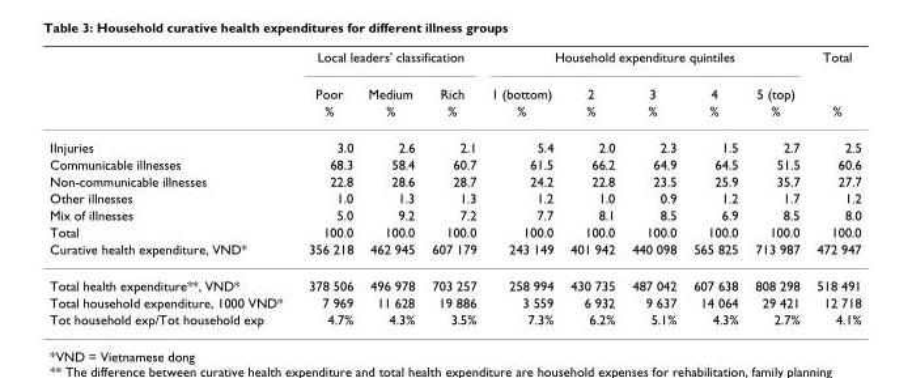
<table><thead><tr><td rowspan="3"></td><td colspan="3">Local leaders&#x27; classification</td><td colspan="5">Household expenditure quintiles</td><td rowspan="3">Total %</td></tr><tr><td rowspan="2">Poor %</td><td rowspan="2">Medium %</td><td rowspan="2">Rich %</td><td rowspan="2">1 (bottom) %</td><td rowspan="2">2 %</td><td rowspan="2">3 %</td><td rowspan="2">4 %</td><td rowspan="2">5 (top) %</td></tr><tr></tr></thead><tbody><tr><td>IInjuries</td><td>3.0</td><td>2.6</td><td>2.1</td><td>5.4</td><td>2.0</td><td>2.3</td><td>1.5</td><td>2.7</td><td>2.5</td></tr><tr><td>Communicable illnesses</td><td>68.3</td><td>58.4</td><td>60.7</td><td>61.5</td><td>66.2</td><td>64.9</td><td>64.5</td><td>51.5</td><td>60.6</td></tr><tr><td>Non-communicable illnesses</td><td>22.8</td><td>28.6</td><td>28.7</td><td>24.2</td><td>22.8</td><td>23.5</td><td>25.9</td><td>35.7</td><td>27.7</td></tr><tr><td>Other illnesses</td><td>1.0</td><td>1.3</td><td>1.3</td><td>1.2</td><td>1.0</td><td>0.9</td><td>1.2</td><td>1.7</td><td>1.2</td></tr><tr><td>Mix of illnesses</td><td>5.0</td><td>9.2</td><td>7.2</td><td>7.7</td><td>8.1</td><td>8.5</td><td>6.9</td><td>8.5</td><td>8.0</td></tr><tr><td>Total</td><td>100.0</td><td>100.0</td><td>100.0</td><td>100.0</td><td>100.0</td><td>100.0</td><td>100.0</td><td>100.0</td><td>100.0</td></tr><tr><td>Curative health expenditure, VND*</td><td>356 218</td><td>462 945</td><td>607 179</td><td>243 149</td><td>401 942</td><td>440 098</td><td>565 825</td><td>713 987</td><td>472 947</td></tr><tr><td>Total health expenditure**, VND*</td><td>378 506</td><td>496 978</td><td>703 257</td><td>258 994</td><td>430 735</td><td>487 042</td><td>607 638</td><td>808 298</td><td>518 491</td></tr><tr><td>Total household expenditure, 1000 VND*</td><td>7 969</td><td>11 628</td><td>19 886</td><td>3 559</td><td>6 932</td><td>9 637</td><td>14 064</td><td>29 421</td><td>12 718</td></tr><tr><td>Tot household exp/Tot household exp</td><td>4.7%</td><td>4.3%</td><td>3.5%</td><td>7.3%</td><td>6.2%</td><td>5.1%</td><td>4.3%</td><td>2.7%</td><td>4.1%</td></tr></tbody></table>